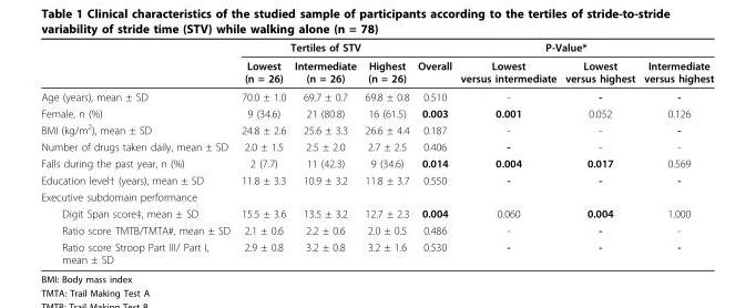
<table><thead><tr><td rowspan="2"></td><td colspan="3">Tertiles of STV</td><td colspan="4">P-Value*</td></tr><tr><td>Lowest (n = 26)</td><td>Intermediate (n = 26)</td><td>Highest (n = 26)</td><td>Overall</td><td>Lowest versus intermediate</td><td>Lowest versus highest</td><td>Intermediate versus highest</td></tr></thead><tbody><tr><td>Age (years), mean ± SD</td><td>70.0 ± 1.0</td><td>69.7 ± 0.7</td><td>69.8 ± 0.8</td><td>0.510</td><td>-</td><td>-</td><td>-</td></tr><tr><td>Female, n (%)</td><td>9 (34.6)</td><td>21 (80.8)</td><td>16 (61.5)</td><td>0.003</td><td>0.001</td><td>0.052</td><td>0.126</td></tr><tr><td>BMI (kg/m<sup>2</sup>), mean ± SD</td><td>24.8 ± 2.6</td><td>25.6 ± 3.3</td><td>26.6 ± 4.4</td><td>0.187</td><td>-</td><td>-</td><td>-</td></tr><tr><td>Number of drugs taken daily, mean ± SD</td><td>2.0 ± 1.5</td><td>2.5 ± 2.0</td><td>2.7 ± 2.5</td><td>0.406</td><td>-</td><td>-</td><td>-</td></tr><tr><td>Falls during the past year, n (%)</td><td>2 (7.7)</td><td>11 (42.3)</td><td>9 (34.6)</td><td>0.014</td><td>0.004</td><td>0.017</td><td>0.569</td></tr><tr><td>Education level† (years), mean ± SD</td><td>11.8 ± 3.3</td><td>10.9 ± 3.2</td><td>11.8 ± 3.7</td><td>0.550</td><td>-</td><td>-</td><td>-</td></tr><tr><td colspan="8">Executive subdomain performance</td></tr><tr><td>Digit Span score‡, mean ± SD</td><td>15.5 ± 3.6</td><td>13.5 ± 3.2</td><td>12.7 ± 2.3</td><td>0.004</td><td>0.060</td><td>0.004</td><td>1.000</td></tr><tr><td>Ratio score TMTB/TMTA#, mean ± SD</td><td>2.1 ± 0.6</td><td>2.2 ± 0.6</td><td>2.0 ± 0.5</td><td>0.486</td><td>-</td><td>-</td><td>-</td></tr><tr><td>Ratio score Stroop Part III/ Part I, mean ± SD</td><td>2.9 ± 0.8</td><td>3.2 ± 0.8</td><td>3.2 ± 1.6</td><td>0.530</td><td>-</td><td>-</td><td>-</td></tr></tbody></table>